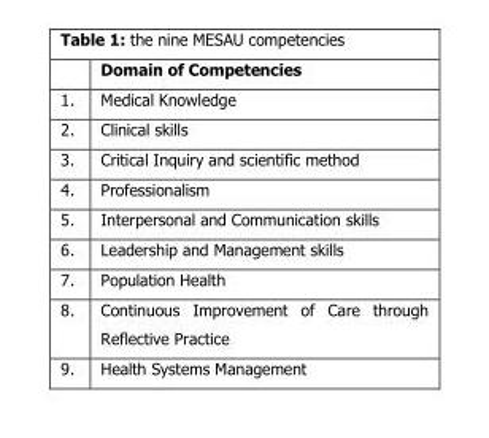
<table><thead><tr><td></td><td>Domain of Competencies</td></tr></thead><tbody><tr><td>1.</td><td>Medical Knowledge</td></tr><tr><td>2.</td><td>Clinical skills</td></tr><tr><td>3.</td><td>Critical Inquiry and scientific method</td></tr><tr><td>4.</td><td>Professionalism</td></tr><tr><td>5.</td><td>Interpersonal and Communication skills</td></tr><tr><td>6.</td><td>Leadership and Management skills</td></tr><tr><td>7.</td><td>Population Health</td></tr><tr><td>8.</td><td>Continuous Improvement of Care through Reflective Practice</td></tr><tr><td>9.</td><td>Health Systems Management</td></tr></tbody></table>